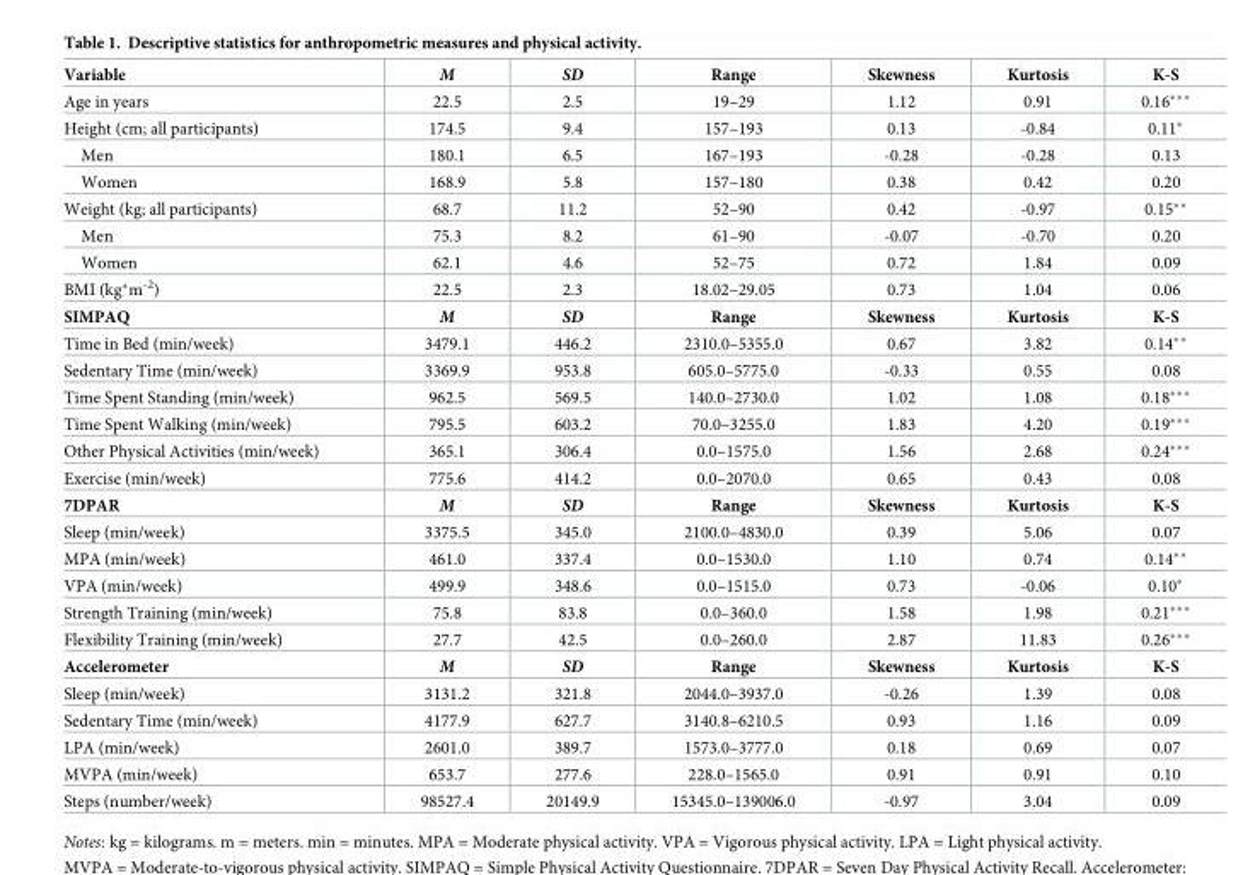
<table><tbody><tr><td>Variable</td><td>M</td><td>SD</td><td>Range</td><td>Skewness</td><td>Kurtosis</td><td>K-S</td></tr><tr><td>Age in years</td><td>22.5</td><td>2.5</td><td>19–29</td><td>1.12</td><td>0.91</td><td>0.16***</td></tr><tr><td>Height (cm; all participants)</td><td>174.5</td><td>9.4</td><td>157–193</td><td>0.13</td><td>-0.84</td><td>0.11*</td></tr><tr><td>Men</td><td>180.1</td><td>6.5</td><td>167–193</td><td>-0.28</td><td>-0.28</td><td>0.13</td></tr><tr><td>Women</td><td>168.9</td><td>5.8</td><td>157–180</td><td>0.38</td><td>0.42</td><td>0.20</td></tr><tr><td>Weight (kg; all participants)</td><td>68.7</td><td>11.2</td><td>52–90</td><td>0.42</td><td>-0.97</td><td>0.15**</td></tr><tr><td>Men</td><td>75.3</td><td>8.2</td><td>61–90</td><td>-0.07</td><td>-0.70</td><td>0.20</td></tr><tr><td>Women</td><td>62.1</td><td>4.6</td><td>52–75</td><td>0.72</td><td>1.84</td><td>0.09</td></tr><tr><td>BMI (kg*m<sup>-2</sup>)</td><td>22.5</td><td>2.3</td><td>18.02–29.05</td><td>0.73</td><td>1.04</td><td>0.06</td></tr><tr><td>SIMPAQ</td><td>M</td><td>SD</td><td>Range</td><td>Skewness</td><td>Kurtosis</td><td>K-S</td></tr><tr><td>Time in Bed (min/week)</td><td>3479.1</td><td>446.2</td><td>2310.0–5355.0</td><td>0.67</td><td>3.82</td><td>0.14**</td></tr><tr><td>Sedentary Time (min/week)</td><td>3369.9</td><td>953.8</td><td>605.0–5775.0</td><td>-0.33</td><td>0.55</td><td>0.08</td></tr><tr><td>Time Spent Standing (min/week)</td><td>962.5</td><td>569.5</td><td>140.0–2730.0</td><td>1.02</td><td>1.08</td><td>0.18***</td></tr><tr><td>Time Spent Walking (min/week)</td><td>795.5</td><td>603.2</td><td>70.0–3255.0</td><td>1.83</td><td>4.20</td><td>0.19***</td></tr><tr><td>Other Physical Activities (min/week)</td><td>365.1</td><td>306.4</td><td>0.0–1575.0</td><td>1.56</td><td>2.68</td><td>0.24***</td></tr><tr><td>Exercise (min/week)</td><td>775.6</td><td>414.2</td><td>0.0–2070.0</td><td>0.65</td><td>0.43</td><td>0.08</td></tr><tr><td>7DPAR</td><td>M</td><td>SD</td><td>Range</td><td>Skewness</td><td>Kurtosis</td><td>K-S</td></tr><tr><td>Sleep (min/week)</td><td>3375.5</td><td>345.0</td><td>2100.0–4830.0</td><td>0.39</td><td>5.06</td><td>0.07</td></tr><tr><td>MPA (min/week)</td><td>461.0</td><td>337.4</td><td>0.0–1530.0</td><td>1.10</td><td>0.74</td><td>0.14**</td></tr><tr><td>VPA (min/week)</td><td>499.9</td><td>348.6</td><td>0.0–1515.0</td><td>0.73</td><td>-0.06</td><td>0.10*</td></tr><tr><td>Strength Training (min/week)</td><td>75.8</td><td>83.8</td><td>0.0–360.0</td><td>1.58</td><td>1.98</td><td>0.21***</td></tr><tr><td>Flexibility Training (min/week)</td><td>27.7</td><td>42.5</td><td>0.0–260.0</td><td>2.87</td><td>11.83</td><td>0.26***</td></tr><tr><td>Accelerometer</td><td>M</td><td>SD</td><td>Range</td><td>Skewness</td><td>Kurtosis</td><td>K-S</td></tr><tr><td>Sleep (min/week)</td><td>3131.2</td><td>321.8</td><td>2044.0–3937.0</td><td>-0.26</td><td>1.39</td><td>0.08</td></tr><tr><td>Sedentary Time (min/week)</td><td>4177.9</td><td>627.7</td><td>3140.8–6210.5</td><td>0.93</td><td>1.16</td><td>0.09</td></tr><tr><td>LPA (min/week)</td><td>2601.0</td><td>389.7</td><td>1573.0–3777.0</td><td>0.18</td><td>0.69</td><td>0.07</td></tr><tr><td>MVPA (min/week)</td><td>653.7</td><td>277.6</td><td>228.0–1565.0</td><td>0.91</td><td>0.91</td><td>0.10</td></tr><tr><td>Steps (number/week)</td><td>98527.4</td><td>20149.9</td><td>15345.0–139006.0</td><td>-0.97</td><td>3.04</td><td>0.09</td></tr></tbody></table>